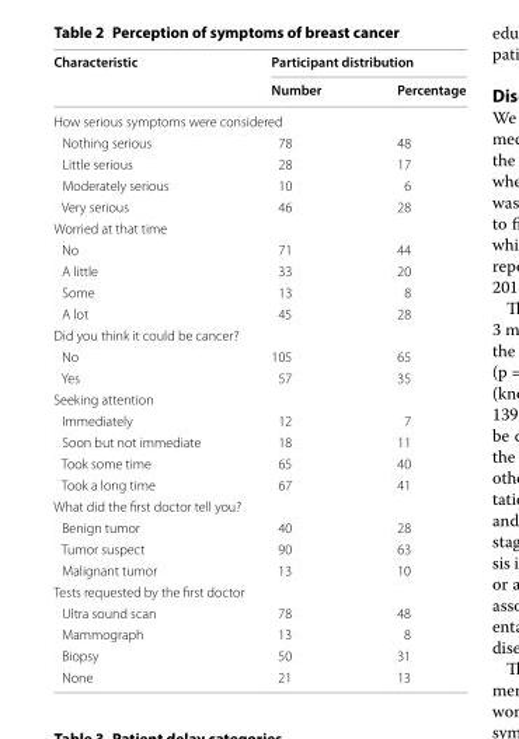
<table><thead><tr><td rowspan="2">Characteristic</td><td colspan="2">Participant distribution</td></tr><tr><td>Number</td><td>Percentage</td></tr></thead><tbody><tr><td colspan="3">How serious symptoms were considered</td></tr><tr><td>Nothing serious</td><td>78</td><td>48</td></tr><tr><td>Little serious</td><td>28</td><td>17</td></tr><tr><td>Moderately serious</td><td>10</td><td>6</td></tr><tr><td>Very serious</td><td>46</td><td>28</td></tr><tr><td colspan="3">Worried at that time</td></tr><tr><td>No</td><td>71</td><td>44</td></tr><tr><td>A little</td><td>33</td><td>20</td></tr><tr><td>Some</td><td>13</td><td>8</td></tr><tr><td>A lot</td><td>45</td><td>28</td></tr><tr><td colspan="3">Did you think it could be cancer?</td></tr><tr><td>No</td><td>105</td><td>65</td></tr><tr><td>Yes</td><td>57</td><td>35</td></tr><tr><td colspan="3">Seeking attention</td></tr><tr><td>Immediately</td><td>12</td><td>7</td></tr><tr><td>Soon but not immediate</td><td>18</td><td>11</td></tr><tr><td>Took some time</td><td>65</td><td>40</td></tr><tr><td>Took a long time</td><td>67</td><td>41</td></tr><tr><td colspan="3">What did the first doctor tell you?</td></tr><tr><td>Benign tumor</td><td>40</td><td>28</td></tr><tr><td>Tumor suspect</td><td>90</td><td>63</td></tr><tr><td>Malignant tumor</td><td>13</td><td>10</td></tr><tr><td colspan="3">Tests requested by the first doctor</td></tr><tr><td>Ultra sound scan</td><td>78</td><td>48</td></tr><tr><td>Mammograph</td><td>13</td><td>8</td></tr><tr><td>Biopsy</td><td>50</td><td>31</td></tr><tr><td>None</td><td>21</td><td>13</td></tr></tbody></table>